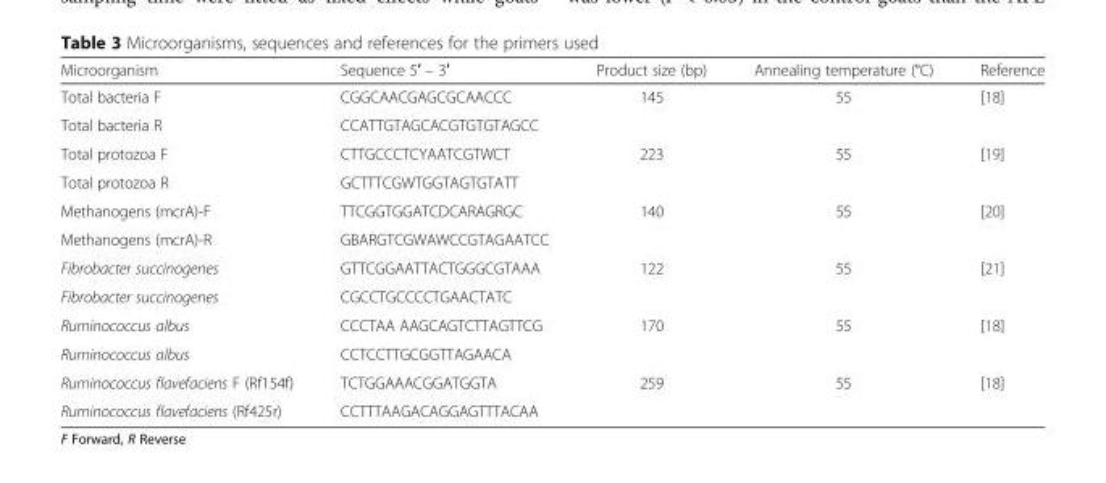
<table><thead><tr><td>Microorganism</td><td>Sequence 5′ – 3′</td><td>Product size (bp)</td><td>Annealing temperature (°C)</td><td>Reference</td></tr></thead><tbody><tr><td>Total bacteria F</td><td>CGGCAACGAGCGCAACCC</td><td rowspan="2">145</td><td rowspan="2">55</td><td rowspan="2">[18]</td></tr><tr><td>Total bacteria R</td><td>CCATTGTAGCACGTGTGTAGCC</td></tr><tr><td>Total protozoa F</td><td>CTTGCCCTCYAATCGTWCT</td><td rowspan="2">223</td><td rowspan="2">55</td><td rowspan="2">[19]</td></tr><tr><td>Total protozoa R</td><td>GCTTTCGWTGGTAGTGTATT</td></tr><tr><td>Methanogens (mcrA)-F</td><td>TTCGGTGGATCDCARAGRGC</td><td rowspan="2">140</td><td rowspan="2">55</td><td rowspan="2">[20]</td></tr><tr><td>Methanogens (mcrA)-R</td><td>GBARGTCGWAWCCGTAGAATCC</td></tr><tr><td>Fibrobacter succinogenes</td><td>GTTCGGAATTACTGGGCGTAAA</td><td rowspan="2">122</td><td rowspan="2">55</td><td rowspan="2">[21]</td></tr><tr><td>Fibrobacter succinogenes</td><td>CGCCTGCCCCTGAACTATC</td></tr><tr><td>Ruminococcus albus</td><td>CCCTAA AAGCAGTCTTAGTTCG</td><td rowspan="2">170</td><td rowspan="2">55</td><td rowspan="2">[18]</td></tr><tr><td>Ruminococcus albus</td><td>CCTCCTTGCGGTTAGAACA</td></tr><tr><td>Ruminococcus flavefaciens F (Rf154f)</td><td>TCTGGAAACGGATGGTA</td><td rowspan="2">259</td><td rowspan="2">55</td><td rowspan="2">[18]</td></tr><tr><td>Ruminococcus flavefaciens (Rf425r)</td><td>CCTTTAAGACAGGAGTTTACAA</td></tr></tbody></table>